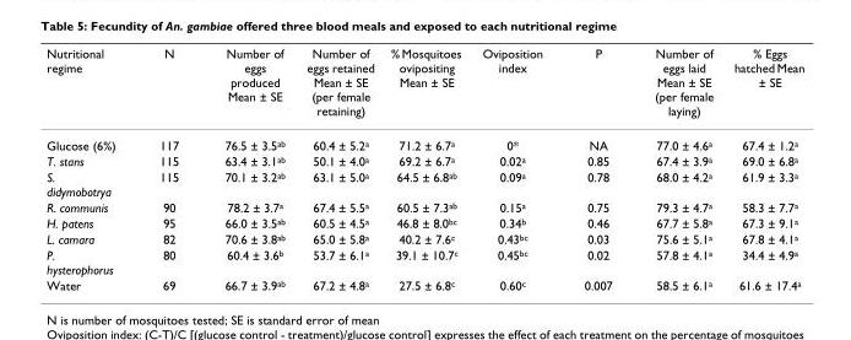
<table><thead><tr><td>Nutritional regime</td><td>N</td><td>Number of eggs produced Mean ± SE</td><td>Number of eggs retained Mean ± SE (per female retaining)</td><td>% Mosquitoes ovipositing Mean ± SE</td><td>Oviposition index</td><td>P</td><td>Number of eggs laid Mean ± SE (per female laying)</td><td>% Eggs hatched Mean ± SE</td></tr></thead><tbody><tr><td>Glucose (6%)</td><td>117</td><td>76.5 ± 3.5<sup>ab</sup></td><td>60.4 ± 5.2<sup>a</sup></td><td>71.2 ± 6.7<sup>a</sup></td><td>0*</td><td>NA</td><td>77.0 ± 4.6<sup>a</sup></td><td>67.4 ± 1.2<sup>a</sup></td></tr><tr><td>T. stans</td><td>115</td><td>63.4 ± 3.1<sup>ab</sup></td><td>50.1 ± 4.0<sup>a</sup></td><td>69.2 ± 6.7<sup>a</sup></td><td>0.02<sup>a</sup></td><td>0.85</td><td>67.4 ± 3.9<sup>a</sup></td><td>69.0 ± 6.8<sup>a</sup></td></tr><tr><td>S. didymobotrya</td><td>115</td><td>70.1 ± 3.2<sup>ab</sup></td><td>63.1 ± 5.0<sup>a</sup></td><td>64.5 ± 6.8<sup>ab</sup></td><td>0.09<sup>a</sup></td><td>0.78</td><td>68.0 ± 4.2<sup>a</sup></td><td>61.9 ± 3.3<sup>a</sup></td></tr><tr><td>R. communis</td><td>90</td><td>78.2 ± 3.7<sup>a</sup></td><td>67.4 ± 5.5<sup>a</sup></td><td>60.5 ± 7.3<sup>ab</sup></td><td>0.15<sup>a</sup></td><td>0.75</td><td>79.3 ± 4.7<sup>a</sup></td><td>58.3 ± 7.7<sup>a</sup></td></tr><tr><td>H. patens</td><td>95</td><td>66.0 ± 3.5<sup>ab</sup></td><td>60.5 ± 4.5<sup>a</sup></td><td>46.8 ± 8.0<sup>bc</sup></td><td>0.34<sup>b</sup></td><td>0.46</td><td>67.7 ± 5.8<sup>a</sup></td><td>67.3 ± 9.1<sup>a</sup></td></tr><tr><td>L. camara</td><td>82</td><td>70.6 ± 3.8<sup>ab</sup></td><td>65.0 ± 5.8<sup>a</sup></td><td>40.2 ± 7.6<sup>c</sup></td><td>0.43<sup>bc</sup></td><td>0.03</td><td>75.6 ± 5.1<sup>a</sup></td><td>67.8 ± 4.1<sup>a</sup></td></tr><tr><td>P. hysterophorus</td><td>80</td><td>60.4 ± 3.6<sup>b</sup></td><td>53.7 ± 6.1<sup>a</sup></td><td>39.1 ± 10.7<sup>c</sup></td><td>0.45<sup>bc</sup></td><td>0.02</td><td>57.8 ± 4.1<sup>a</sup></td><td>34.4 ± 4.9<sup>a</sup></td></tr><tr><td>Water</td><td>69</td><td>66.7 ± 3.9<sup>ab</sup></td><td>67.2 ± 4.8<sup>a</sup></td><td>27.5 ± 6.8<sup>c</sup></td><td>0.60<sup>c</sup></td><td>0.007</td><td>58.5 ± 6.1<sup>a</sup></td><td>61.6 ± 17.4<sup>a</sup></td></tr></tbody></table>